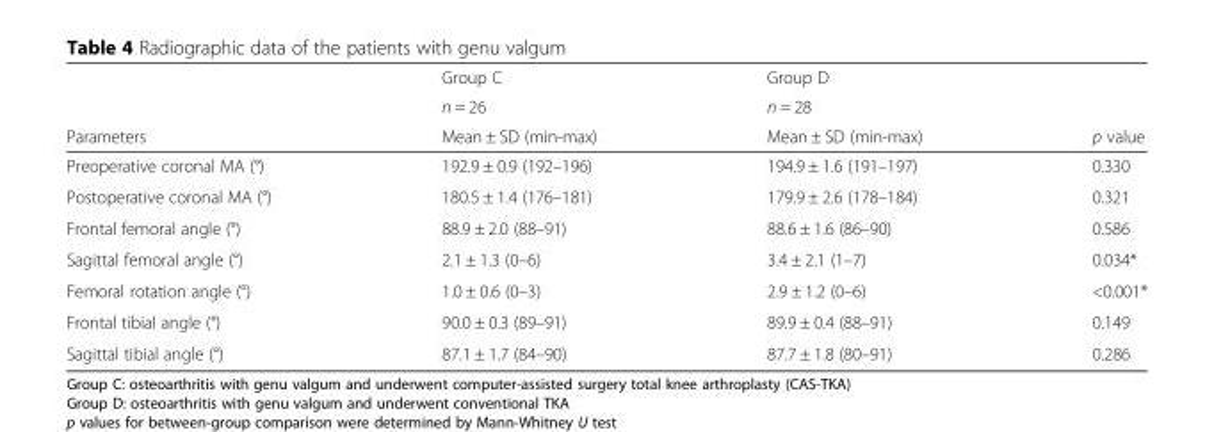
<table><thead><tr><td rowspan="3">Parameters</td><td rowspan="3">Group C n = 26 Mean ± SD (min-max)</td><td rowspan="3">Group D n = 28 Mean ± SD (min-max)</td><td rowspan="3">p value</td></tr><tr></tr><tr></tr></thead><tbody><tr><td>Preoperative coronal MA (°)</td><td>192.9 ± 0.9 (192–196)</td><td>194.9 ± 1.6 (191–197)</td><td>0.330</td></tr><tr><td>Postoperative coronal MA (°)</td><td>180.5 ± 1.4 (176–181)</td><td>179.9 ± 2.6 (178–184)</td><td>0.321</td></tr><tr><td>Frontal femoral angle (°)</td><td>88.9 ± 2.0 (88–91)</td><td>88.6 ± 1.6 (86–90)</td><td>0.586</td></tr><tr><td>Sagittal femoral angle (°)</td><td>2.1 ± 1.3 (0–6)</td><td>3.4 ± 2.1 (1–7)</td><td>0.034*</td></tr><tr><td>Femoral rotation angle (°)</td><td>1.0 ± 0.6 (0–3)</td><td>2.9 ± 1.2 (0–6)</td><td>&lt;0.001*</td></tr><tr><td>Frontal tibial angle (°)</td><td>90.0 ± 0.3 (89–91)</td><td>89.9 ± 0.4 (88–91)</td><td>0.149</td></tr><tr><td>Sagittal tibial angle (°)</td><td>87.1 ± 1.7 (84–90)</td><td>87.7 ± 1.8 (80–91)</td><td>0.286</td></tr></tbody></table>